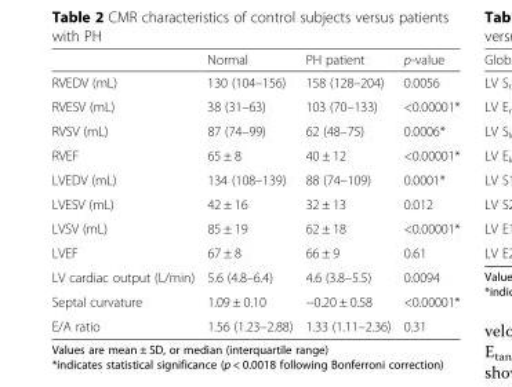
<table><thead><tr><td></td><td>Normal</td><td>PH patient</td><td>p-value</td></tr></thead><tbody><tr><td>RVEDV (mL)</td><td>130 (104–156)</td><td>158 (128–204)</td><td>0.0056</td></tr><tr><td>RVESV (mL)</td><td>38 (31–63)</td><td>103 (70–133)</td><td>&lt;0.00001*</td></tr><tr><td>RVSV (mL)</td><td>87 (74–99)</td><td>62 (48–75)</td><td>0.0006*</td></tr><tr><td>RVEF</td><td>65 ± 8</td><td>40 ± 12</td><td>&lt;0.00001*</td></tr><tr><td>LVEDV (mL)</td><td>134 (108–139)</td><td>88 (74–109)</td><td>0.0001*</td></tr><tr><td>LVESV (mL)</td><td>42 ± 16</td><td>32 ± 13</td><td>0.012</td></tr><tr><td>LVSV (mL)</td><td>85 ± 19</td><td>62 ± 18</td><td>&lt;0.00001*</td></tr><tr><td>LVEF</td><td>67 ± 8</td><td>66 ± 9</td><td>0.61</td></tr><tr><td>LV cardiac output (L/min)</td><td>5.6 (4.8–6.4)</td><td>4.6 (3.8–5.5)</td><td>0.0094</td></tr><tr><td>Septal curvature</td><td>1.09 ± 0.10</td><td>−0.20 ± 0.58</td><td>&lt;0.00001*</td></tr><tr><td>E/A ratio</td><td>1.56 (1.23–2.88)</td><td>1.33 (1.11–2.36)</td><td>0.31</td></tr></tbody></table>